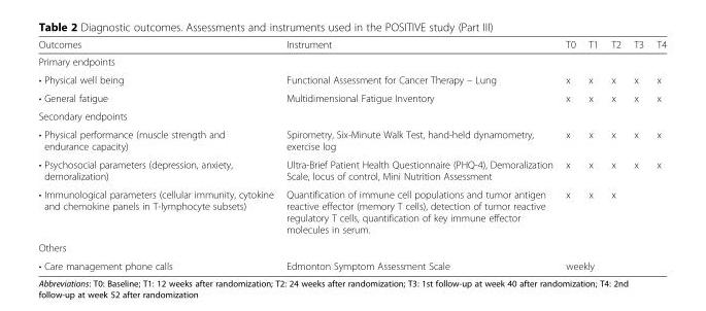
<table><thead><tr><td>Outcomes</td><td>Instrument</td><td>T0</td><td>T1</td><td>T2</td><td>T3</td><td>T4</td></tr></thead><tbody><tr><td colspan="7">Primary endpoints</td></tr><tr><td>• Physical well being</td><td>Functional Assessment for Cancer Therapy – Lung</td><td>x</td><td>x</td><td>x</td><td>x</td><td>x</td></tr><tr><td>• General fatigue</td><td>Multidimensional Fatigue Inventory</td><td>x</td><td>x</td><td>x</td><td>x</td><td>x</td></tr><tr><td colspan="7">Secondary endpoints</td></tr><tr><td>• Physical performance (muscle strength and endurance capacity)</td><td>Spirometry, Six-Minute Walk Test, hand-held dynamometry, exercise log</td><td>x</td><td>x</td><td>x</td><td>x</td><td>x</td></tr><tr><td>• Psychosocial parameters (depression, anxiety, demoralization)</td><td>Ultra-Brief Patient Health Questionnaire (PHQ-4), Demoralization Scale, locus of control, Mini Nutrition Assessment</td><td>x</td><td>x</td><td>x</td><td>x</td><td>x</td></tr><tr><td>• Immunological parameters (cellular immunity, cytokine and chemokine panels in T-lymphocyte subsets)</td><td>Quantification of immune cell populations and tumor antigen reactive effector (memory T cells), detection of tumor reactive regulatory T cells, quantification of key immune effector molecules in serum.</td><td>x</td><td>x</td><td>x</td><td></td><td></td></tr><tr><td colspan="7">Others</td></tr><tr><td>• Care management phone calls</td><td>Edmonton Symptom Assessment Scale</td><td colspan="5">weekly</td></tr></tbody></table>